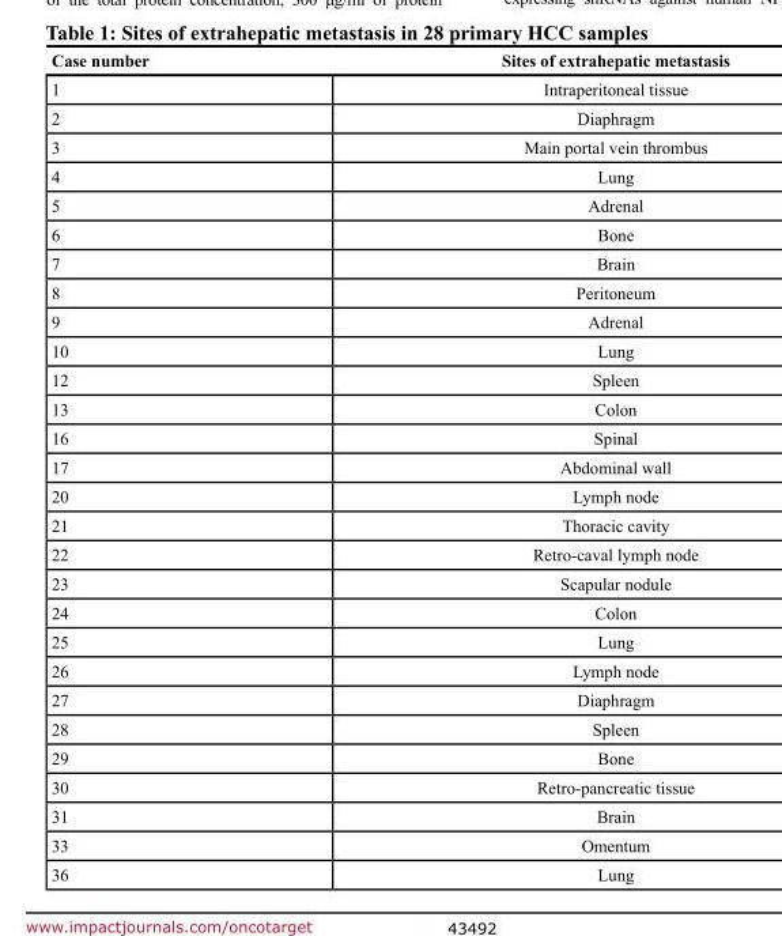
<table><thead><tr><td>Case number</td><td>Sites of extrahepatic metastasis</td></tr></thead><tbody><tr><td>1</td><td>Intraperitoneal tissue</td></tr><tr><td>2</td><td>Diaphragm</td></tr><tr><td>3</td><td>Main portal vein thrombus</td></tr><tr><td>4</td><td>Lung</td></tr><tr><td>5</td><td>Adrenal</td></tr><tr><td>6</td><td>Bone</td></tr><tr><td>7</td><td>Brain</td></tr><tr><td>8</td><td>Peritoneum</td></tr><tr><td>9</td><td>Adrenal</td></tr><tr><td>10</td><td>Lung</td></tr><tr><td>12</td><td>Spleen</td></tr><tr><td>13</td><td>Colon</td></tr><tr><td>16</td><td>Spinal</td></tr><tr><td>17</td><td>Abdominal wall</td></tr><tr><td>20</td><td>Lymph node</td></tr><tr><td>21</td><td>Thoracic cavity</td></tr><tr><td>22</td><td>Retro-caval lymph node</td></tr><tr><td>23</td><td>Scapular nodule</td></tr><tr><td>24</td><td>Colon</td></tr><tr><td>25</td><td>Lung</td></tr><tr><td>26</td><td>Lymph node</td></tr><tr><td>27</td><td>Diaphragm</td></tr><tr><td>28</td><td>Spleen</td></tr><tr><td>29</td><td>Bone</td></tr><tr><td>30</td><td>Retro-pancreatic tissue</td></tr><tr><td>31</td><td>Brain</td></tr><tr><td>33</td><td>Omentum</td></tr><tr><td>36</td><td>Lung</td></tr></tbody></table>